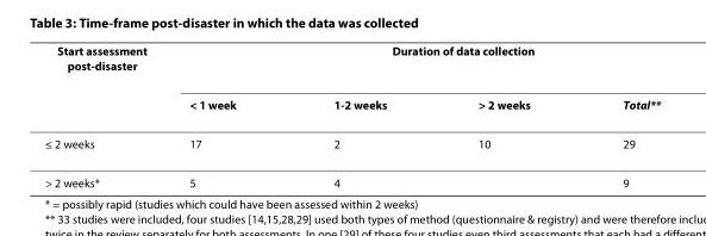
<table><thead><tr><td rowspan="2">Start assessment post-disaster</td><td colspan="4">Duration of data collection</td></tr><tr><td>&lt; 1 week</td><td>1-2 weeks</td><td>&gt; 2 weeks</td><td>Total**</td></tr></thead><tbody><tr><td>≤ 2 weeks</td><td>17</td><td>2</td><td>10</td><td>29</td></tr><tr><td>&gt; 2 weeks*</td><td>5</td><td>4</td><td></td><td>9</td></tr></tbody></table>